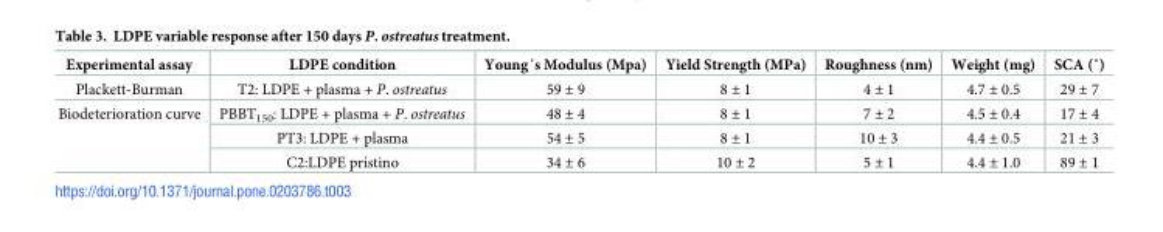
<table><thead><tr><td>Experimental assay</td><td>LDPE condition</td><td>Young´s Modulus (Mpa)</td><td>Yield Strength (MPa)</td><td>Roughness (nm)</td><td>Weight (mg)</td><td>SCA (˚)</td></tr></thead><tbody><tr><td>Plackett-Burman</td><td>T2: LDPE + plasma + P. ostreatus</td><td>59 ± 9</td><td>8 ± 1</td><td>4 ± 1</td><td>4.7 ± 0.5</td><td>29 ± 7</td></tr><tr><td rowspan="3">Biodeterioration curve</td><td>PBBT<sub>150</sub>: LDPE + plasma + P. ostreatus</td><td>48 ± 4</td><td>8 ± 1</td><td>7 ± 2</td><td>4.5 ± 0.4</td><td>17 ± 4</td></tr><tr><td>PT3: LDPE + plasma</td><td>54 ± 5</td><td>8 ± 1</td><td>10 ± 3</td><td>4.4 ± 0.5</td><td>21 ± 3</td></tr><tr><td>C2:LDPE prı´stino</td><td>34 ± 6</td><td>10 ± 2</td><td>5 ± 1</td><td>4.4 ± 1.0</td><td>89 ± 1</td></tr></tbody></table>